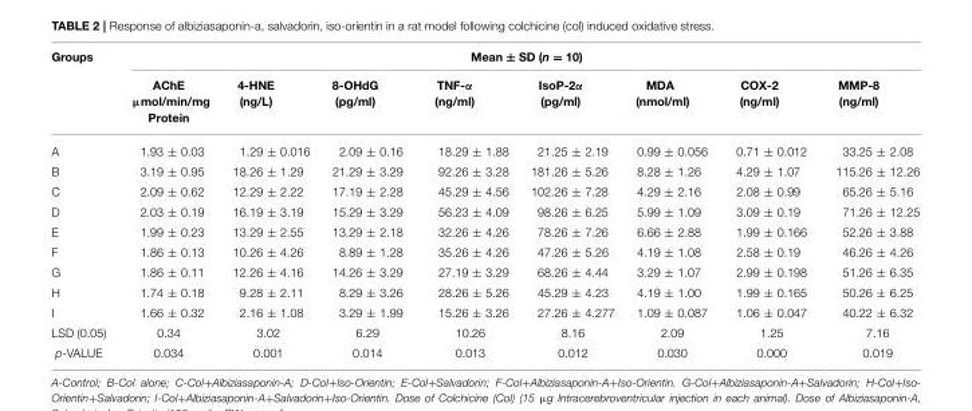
<table><thead><tr><td rowspan="2">Groups</td><td colspan="8">Mean ± SD (n = 10)</td></tr><tr><td>AChE µmol/min/mg Protein</td><td>4-HNE (ng/L)</td><td>8-OHdG (pg/ml)</td><td>TNF-α (ng/ml)</td><td>IsoP-2α (pg/ml)</td><td>MDA (nmol/ml)</td><td>COX-2 (ng/ml)</td><td>MMP-8 (ng/ml)</td></tr></thead><tbody><tr><td>A</td><td>1.93 ± 0.03</td><td>1.29 ± 0.016</td><td>2.09 ± 0.16</td><td>18.29 ± 1.88</td><td>21.25 ± 2.19</td><td>0.99 ± 0.056</td><td>0.71 ± 0.012</td><td>33.25 ± 2.08</td></tr><tr><td>B</td><td>3.19 ± 0.95</td><td>18.26 ± 1.29</td><td>21.29 ± 3.29</td><td>92.26 ± 3.28</td><td>181.26 ± 5.26</td><td>8.28 ± 1.26</td><td>4.29 ± 1.07</td><td>115.26 ± 12.26</td></tr><tr><td>C</td><td>2.09 ± 0.62</td><td>12.29 ± 2.22</td><td>17.19 ± 2.28</td><td>45.29 ± 4.56</td><td>102.26 ± 7.28</td><td>4.29 ± 2.16</td><td>2.08 ± 0.99</td><td>65.26 ± 5.16</td></tr><tr><td>D</td><td>2.03 ± 0.19</td><td>16.19 ± 3.19</td><td>15.29 ± 3.29</td><td>56.23 ± 4.09</td><td>98.26 ± 6.25</td><td>5.99 ± 1.09</td><td>3.09 ± 0.19</td><td>71.26 ± 12.25</td></tr><tr><td>E</td><td>1.99 ± 0.23</td><td>13.29 ± 2.55</td><td>13.29 ± 2.18</td><td>32.26 ± 4.26</td><td>78.26 ± 7.26</td><td>6.66 ± 2.88</td><td>1.99 ± 0.166</td><td>52.26 ± 3.88</td></tr><tr><td>F</td><td>1.86 ± 0.13</td><td>10.26 ± 4.26</td><td>8.89 ± 1.28</td><td>35.26 ± 4.26</td><td>47.26 ± 5.26</td><td>4.19 ± 1.08</td><td>2.58 ± 0.19</td><td>46.26 ± 4.26</td></tr><tr><td>G</td><td>1.86 ± 0.11</td><td>12.26 ± 4.16</td><td>14.26 ± 3.29</td><td>27.19 ± 3.29</td><td>68.26 ± 4.44</td><td>3.29 ± 1.07</td><td>2.99 ± 0.198</td><td>51.26 ± 6.35</td></tr><tr><td>H</td><td>1.74 ± 0.18</td><td>9.28 ± 2.11</td><td>8.29 ± 3.26</td><td>28.26 ± 5.26</td><td>45.29 ± 4.23</td><td>4.19 ± 1.00</td><td>1.99 ± 0.165</td><td>50.26 ± 6.25</td></tr><tr><td>I</td><td>1.66 ± 0.32</td><td>2.16 ± 1.08</td><td>3.29 ± 1.99</td><td>15.26 ± 3.26</td><td>27.26 ± 4.277</td><td>1.09 ± 0.087</td><td>1.06 ± 0.047</td><td>40.22 ± 6.32</td></tr><tr><td>LSD (0.05)</td><td>0.34</td><td>3.02</td><td>6.29</td><td>10.26</td><td>8.16</td><td>2.09</td><td>1.25</td><td>7.16</td></tr><tr><td>p-VALUE</td><td>0.034</td><td>0.001</td><td>0.014</td><td>0.013</td><td>0.012</td><td>0.030</td><td>0.000</td><td>0.019</td></tr></tbody></table>